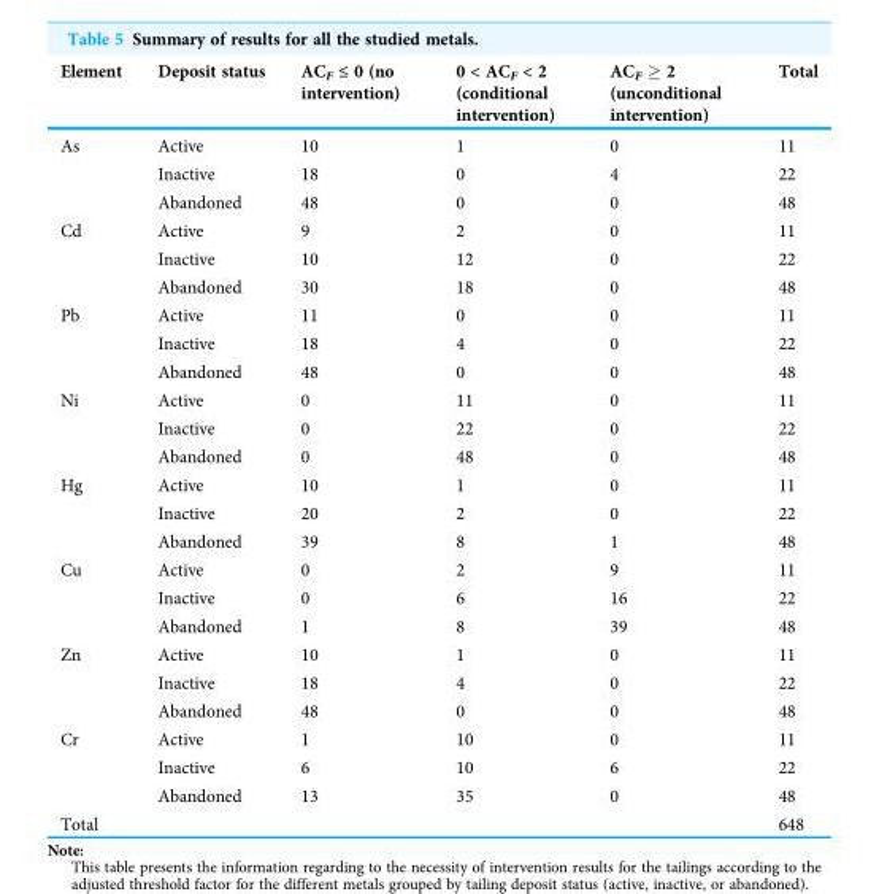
<table><thead><tr><td>Element</td><td>Deposit status</td><td>AC<sub>F</sub> ≤ 0 (no intervention)</td><td>0 &lt; AC<sub>F</sub> &lt; 2 (conditional intervention)</td><td>AC<sub>F</sub> ≥ 2 (unconditional intervention)</td><td>Total</td></tr></thead><tbody><tr><td rowspan="3">As</td><td>Active</td><td>10</td><td>1</td><td>0</td><td>11</td></tr><tr><td>Inactive</td><td>18</td><td>0</td><td>4</td><td>22</td></tr><tr><td>Abandoned</td><td>48</td><td>0</td><td>0</td><td>48</td></tr><tr><td rowspan="3">Cd</td><td>Active</td><td>9</td><td>2</td><td>0</td><td>11</td></tr><tr><td>Inactive</td><td>10</td><td>12</td><td>0</td><td>22</td></tr><tr><td>Abandoned</td><td>30</td><td>18</td><td>0</td><td>48</td></tr><tr><td rowspan="3">Pb</td><td>Active</td><td>11</td><td>0</td><td>0</td><td>11</td></tr><tr><td>Inactive</td><td>18</td><td>4</td><td>0</td><td>22</td></tr><tr><td>Abandoned</td><td>48</td><td>0</td><td>0</td><td>48</td></tr><tr><td rowspan="3">Ni</td><td>Active</td><td>0</td><td>11</td><td>0</td><td>11</td></tr><tr><td>Inactive</td><td>0</td><td>22</td><td>0</td><td>22</td></tr><tr><td>Abandoned</td><td>0</td><td>48</td><td>0</td><td>48</td></tr><tr><td rowspan="3">Hg</td><td>Active</td><td>10</td><td>1</td><td>0</td><td>11</td></tr><tr><td>Inactive</td><td>20</td><td>2</td><td>0</td><td>22</td></tr><tr><td>Abandoned</td><td>39</td><td>8</td><td>1</td><td>48</td></tr><tr><td rowspan="3">Cu</td><td>Active</td><td>0</td><td>2</td><td>9</td><td>11</td></tr><tr><td>Inactive</td><td>0</td><td>6</td><td>16</td><td>22</td></tr><tr><td>Abandoned</td><td>1</td><td>8</td><td>39</td><td>48</td></tr><tr><td rowspan="3">Zn</td><td>Active</td><td>10</td><td>1</td><td>0</td><td>11</td></tr><tr><td>Inactive</td><td>18</td><td>4</td><td>0</td><td>22</td></tr><tr><td>Abandoned</td><td>48</td><td>0</td><td>0</td><td>48</td></tr><tr><td rowspan="3">Cr</td><td>Active</td><td>1</td><td>10</td><td>0</td><td>11</td></tr><tr><td>Inactive</td><td>6</td><td>10</td><td>6</td><td>22</td></tr><tr><td>Abandoned</td><td>13</td><td>35</td><td>0</td><td>48</td></tr><tr><td colspan="5">Total</td><td>648</td></tr></tbody></table>